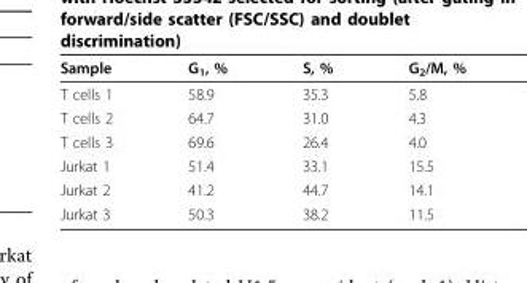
<table><thead><tr><td>Sample</td><td>G<sub>1</sub>, %</td><td>S, %</td><td>G<sub>2</sub>/M, %</td></tr></thead><tbody><tr><td>T cells 1</td><td>58.9</td><td>35.3</td><td>5.8</td></tr><tr><td>T cells 2</td><td>64.7</td><td>31.0</td><td>4.3</td></tr><tr><td>T cells 3</td><td>69.6</td><td>26.4</td><td>4.0</td></tr><tr><td>Jurkat 1</td><td>51.4</td><td>33.1</td><td>15.5</td></tr><tr><td>Jurkat 2</td><td>41.2</td><td>44.7</td><td>14.1</td></tr><tr><td>Jurkat 3</td><td>50.3</td><td>38.2</td><td>11.5</td></tr></tbody></table>